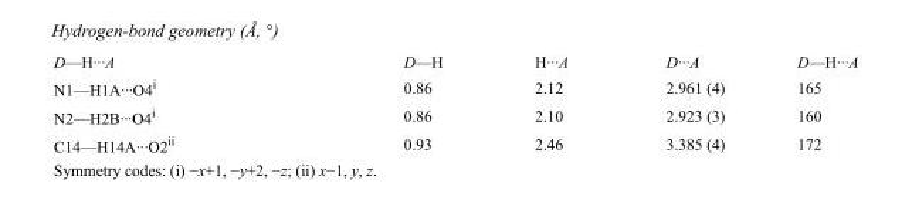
<table><tbody><tr><td>D—H···A</td><td>D—H</td><td>H···A</td><td>D···A</td><td>D—H···A</td></tr><tr><td>N1—H1A···O4<sup>i</sup></td><td>0.86</td><td>2.12</td><td>2.961 (4)</td><td>165</td></tr><tr><td>N2—H2B···O4<sup>i</sup></td><td>0.86</td><td>2.10</td><td>2.923 (3)</td><td>160</td></tr><tr><td>C14—H14A···O2<sup>ii</sup></td><td>0.93</td><td>2.46</td><td>3.385 (4)</td><td>172</td></tr></tbody></table>